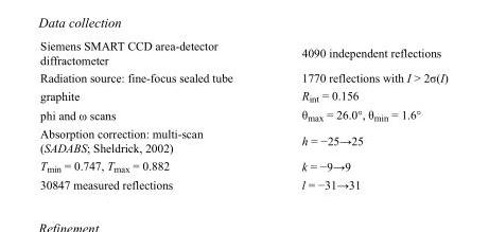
<table><tbody><tr><td>Siemens SMART CCD area-detector diffractometer</td><td>4090 independent reflections</td></tr><tr><td>Radiation source: fine-focus sealed tube</td><td>1770 reflections with I &gt; 2σ(I)</td></tr><tr><td>graphite</td><td>R<sub>int</sub> = 0.156</td></tr><tr><td>phi and ω scans</td><td>θ<sub>max</sub> = 26.0°, θ<sub>min</sub> = 1.6°</td></tr><tr><td>Absorption correction: multi-scan (SADABS; Sheldrick, 2002)</td><td>h = −25→25</td></tr><tr><td>T<sub>min</sub> = 0.747, T<sub>max</sub> = 0.882</td><td>k = −9→9</td></tr><tr><td>30847 measured reflections</td><td>l = −31→31</td></tr></tbody></table>